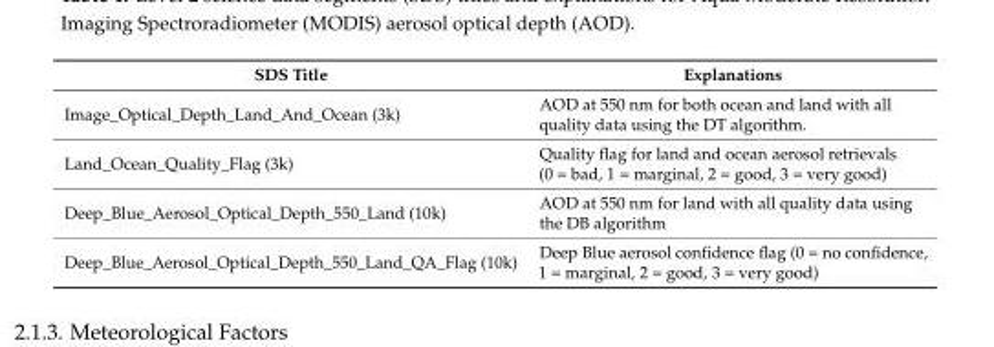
<table><thead><tr><td>SDS Title</td><td>Explanations</td></tr></thead><tbody><tr><td>Image_Optical_Depth_Land_And_Ocean (3k)</td><td>AOD at 550 nm for both ocean and land with all quality data using the DT algorithm.</td></tr><tr><td>Land_Ocean_Quality_Flag (3k)</td><td>Quality flag for land and ocean aerosol retrievals (0 = bad, 1 = marginal, 2 = good, 3 = very good)</td></tr><tr><td>Deep_Blue_Aerosol_Optical_Depth_550_Land (10k)</td><td>AOD at 550 nm for land with all quality data using the DB algorithm</td></tr><tr><td>Deep_Blue_Aerosol_Optical_Depth_550_Land_QA_Flag (10k)</td><td>Deep Blue aerosol confidence flag (0 = no confidence, 1 = marginal, 2 = good, 3 = very good)</td></tr></tbody></table>